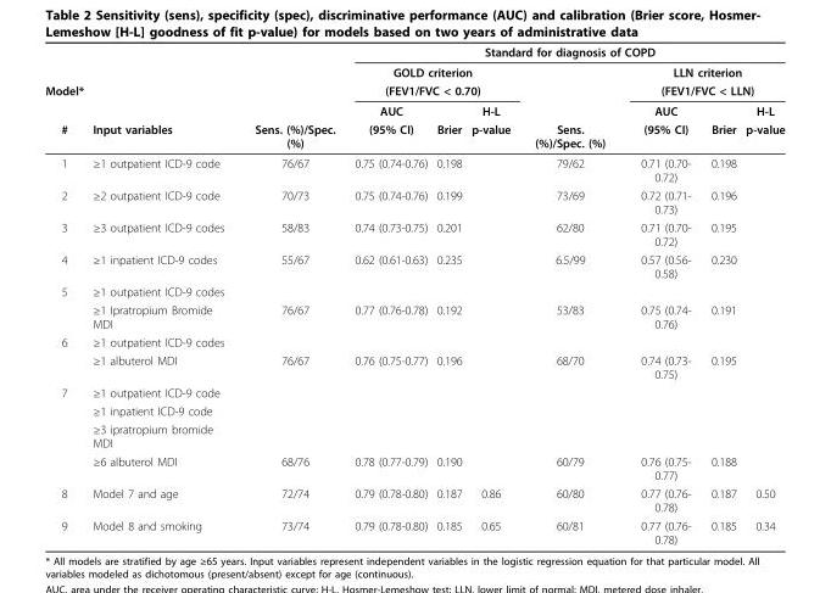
<table><thead><tr><td rowspan="5">Model* #</td><td rowspan="5">Input variables</td><td rowspan="5">Sens. (%)/Spec. (%)</td><td colspan="7">Standard for diagnosis of COPD</td></tr><tr><td rowspan="2" colspan="3">GOLD criterion (FEV1/FVC &lt; 0.70)</td><td rowspan="4">Sens. (%)/Spec. (%)</td><td rowspan="2" colspan="3">LLN criterion (FEV1/FVC &lt; LLN)</td></tr><tr></tr><tr><td rowspan="2">AUC (95% CI)</td><td rowspan="2">Brier</td><td rowspan="2">H-L p-value</td><td rowspan="2">AUC (95% CI)</td><td rowspan="2">Brier</td><td rowspan="2">H-L p-value</td></tr><tr></tr></thead><tbody><tr><td>1</td><td>≥1 outpatient ICD-9 code</td><td>76/67</td><td>0.75 (0.74-0.76)</td><td>0.198</td><td></td><td>79/62</td><td>0.71 (0.70- 0.72)</td><td>0.198</td><td></td></tr><tr><td>2</td><td>≥2 outpatient ICD-9 code</td><td>70/73</td><td>0.75 (0.74-0.76)</td><td>0.199</td><td></td><td>73/69</td><td>0.72 (0.71- 0.73)</td><td>0.196</td><td></td></tr><tr><td>3</td><td>≥3 outpatient ICD-9 codes</td><td>58/83</td><td>0.74 (0.73-0.75)</td><td>0.201</td><td></td><td>62/80</td><td>0.71 (0.70- 0.72)</td><td>0.195</td><td></td></tr><tr><td>4</td><td>≥1 inpatient ICD-9 codes</td><td>55/67</td><td>0.62 (0.61-0.63)</td><td>0.235</td><td></td><td>6.5/99</td><td>0.57 (0.56- 0.58)</td><td>0.230</td><td></td></tr><tr><td rowspan="2">5</td><td>≥1 outpatient ICD-9 codes</td><td></td><td></td><td></td><td></td><td></td><td></td><td></td><td></td></tr><tr><td>≥1 Ipratropium Bromide MDI</td><td>76/67</td><td>0.77 (0.76-0.78)</td><td>0.192</td><td></td><td>53/83</td><td>0.75 (0.74- 0.76)</td><td>0.191</td><td></td></tr><tr><td rowspan="2">6</td><td>≥1 outpatient ICD-9 codes</td><td></td><td></td><td></td><td></td><td></td><td></td><td></td><td></td></tr><tr><td>≥1 albuterol MDI</td><td>76/67</td><td>0.76 (0.75-0.77)</td><td>0.196</td><td></td><td>68/70</td><td>0.74 (0.73- 0.75)</td><td>0.195</td><td></td></tr><tr><td rowspan="4">7</td><td>≥1 outpatient ICD-9 code</td><td></td><td></td><td></td><td></td><td></td><td></td><td></td><td></td></tr><tr><td>≥1 inpatient ICD-9 code</td><td></td><td></td><td></td><td></td><td></td><td></td><td></td><td></td></tr><tr><td>≥3 ipratropium bromide MDI</td><td></td><td></td><td></td><td></td><td></td><td></td><td></td><td></td></tr><tr><td>≥6 albuterol MDI</td><td>68/76</td><td>0.78 (0.77-0.79)</td><td>0.190</td><td></td><td>60/79</td><td>0.76 (0.75- 0.77)</td><td>0.188</td><td></td></tr><tr><td>8</td><td>Model 7 and age</td><td>72/74</td><td>0.79 (0.78-0.80)</td><td>0.187</td><td>0.86</td><td>60/80</td><td>0.77 (0.76- 0.78)</td><td>0.187</td><td>0.50</td></tr><tr><td>9</td><td>Model 8 and smoking</td><td>73/74</td><td>0.79 (0.78-0.80)</td><td>0.185</td><td>0.65</td><td>60/81</td><td>0.77 (0.76- 0.78)</td><td>0.185</td><td>0.34</td></tr></tbody></table>